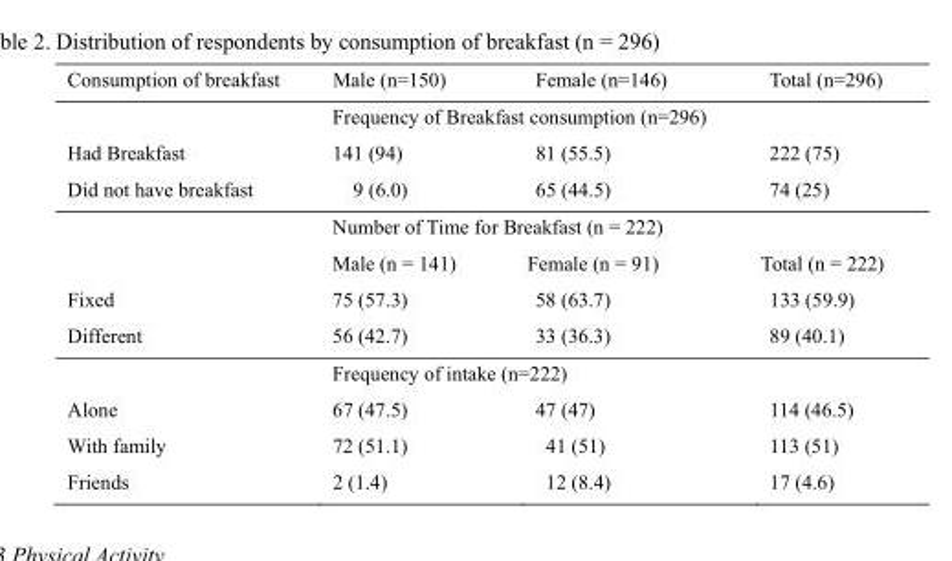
<table><thead><tr><td>Consumption of breakfast</td><td>Male (n=150)</td><td>Female (n=146)</td><td>Total (n=296)</td></tr></thead><tbody><tr><td></td><td colspan="3">Frequency of Breakfast consumption (n=296)</td></tr><tr><td>Had Breakfast</td><td>141 (94)</td><td>81 (55.5)</td><td>222 (75)</td></tr><tr><td rowspan="3">Did not have breakfast</td><td>9 (6.0)</td><td>65 (44.5)</td><td>74 (25)</td></tr><tr><td colspan="3">Number of Time for Breakfast (n = 222)</td></tr><tr><td>Male (n = 141)</td><td>Female (n = 91)</td><td>Total (n = 222)</td></tr><tr><td>Fixed</td><td>75 (57.3)</td><td>58 (63.7)</td><td>133 (59.9)</td></tr><tr><td rowspan="2">Different</td><td>56 (42.7)</td><td>33 (36.3)</td><td>89 (40.1)</td></tr><tr><td colspan="3">Frequency of intake (n=222)</td></tr><tr><td>Alone</td><td>67 (47.5)</td><td>47 (47)</td><td>114 (46.5)</td></tr><tr><td>With family</td><td>72 (51.1)</td><td>41 (51)</td><td>113 (51)</td></tr><tr><td>Friends</td><td>2 (1.4)</td><td>12 (8.4)</td><td>17 (4.6)</td></tr></tbody></table>